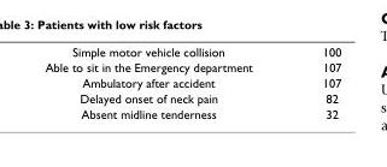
<table><tbody><tr><td>Simple motor vehicle collision</td><td>100</td></tr><tr><td>Able to sit in the Emergency department</td><td>107</td></tr><tr><td>Ambulatory after accident</td><td>107</td></tr><tr><td>Delayed onset of neck pain</td><td>82</td></tr><tr><td>Absent midline tenderness</td><td>32</td></tr></tbody></table>